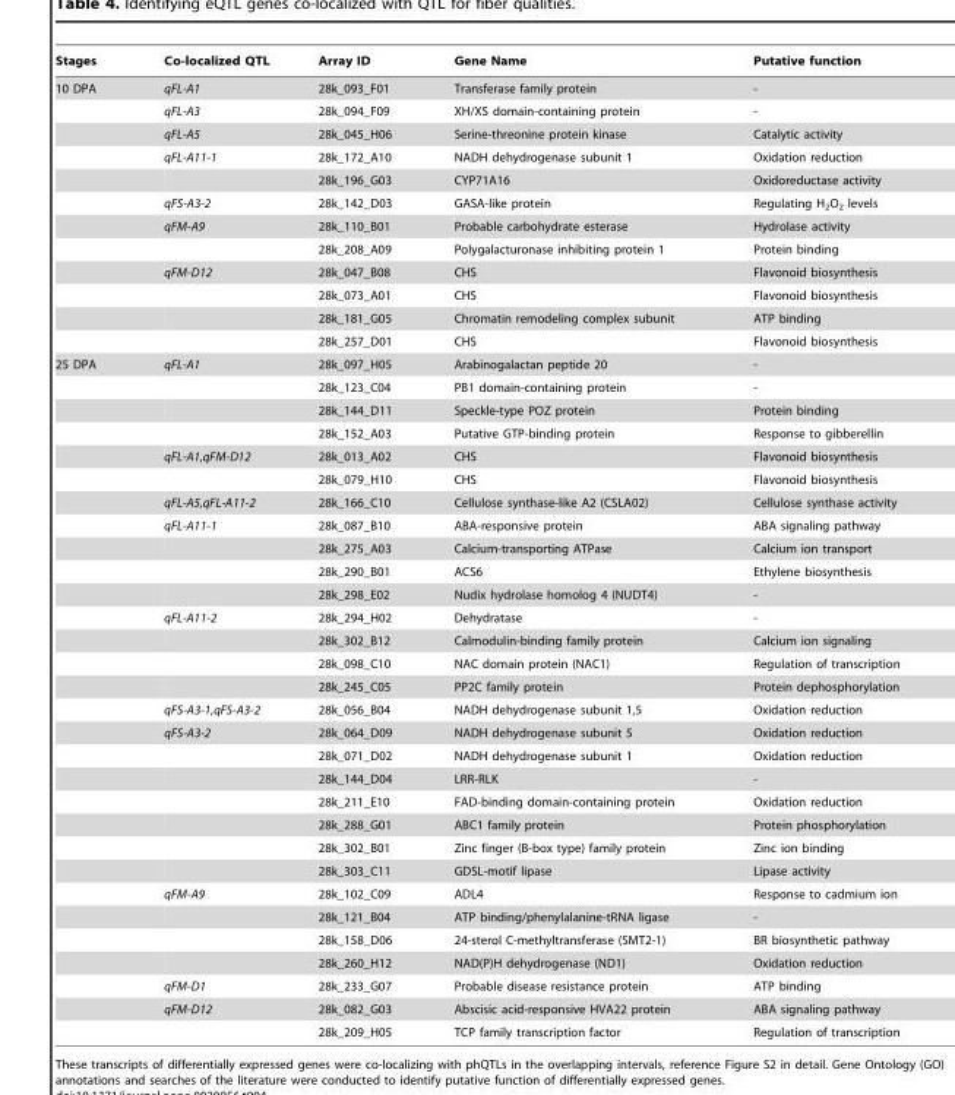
<table><thead><tr><td>Stages</td><td>Co-localized QTL</td><td>Array ID</td><td>Gene Name</td><td>Putative function</td></tr></thead><tbody><tr><td rowspan="12">10 DPA</td><td>qFL-A1</td><td>28k_093_F01</td><td>Transferase family protein</td><td>-</td></tr><tr><td>qFL-A3</td><td>28k_094_F09</td><td>XH/XS domain-containing protein</td><td>-</td></tr><tr><td>qFL-A5</td><td>28k_045_H06</td><td>Serine-threonine protein kinase</td><td>Catalytic activity</td></tr><tr><td>qFL-A11-1</td><td>28k_172_A10</td><td>NADH dehydrogenase subunit 1</td><td>Oxidation reduction</td></tr><tr><td></td><td>28k_196_G03</td><td>CYP71A16</td><td>Oxidoreductase activity</td></tr><tr><td>qFS-A3-2</td><td>28k_142_D03</td><td>GASA-like protein</td><td>Regulating H<sub>2</sub>O<sub>2</sub> levels</td></tr><tr><td>qFM-A9</td><td>28k_110_B01</td><td>Probable carbohydrate esterase</td><td>Hydrolase activity</td></tr><tr><td></td><td>28k_208_A09</td><td>Polygalacturonase inhibiting protein 1</td><td>Protein binding</td></tr><tr><td>qFM-D12</td><td>28k_047_B08</td><td>CHS</td><td>Flavonoid biosynthesis</td></tr><tr><td></td><td>28k_073_A01</td><td>CHS</td><td>Flavonoid biosynthesis</td></tr><tr><td></td><td>28k_181_G05</td><td>Chromatin remodeling complex subunit</td><td>ATP binding</td></tr><tr><td></td><td>28k_257_D01</td><td>CHS</td><td>Flavonoid biosynthesis</td></tr><tr><td rowspan="30">25 DPA</td><td>qFL-A1</td><td>28k_097_H05</td><td>Arabinogalactan peptide 20</td><td>-</td></tr><tr><td></td><td>28k_123_C04</td><td>PB1 domain-containing protein</td><td>-</td></tr><tr><td></td><td>28k_144_D11</td><td>Speckle-type POZ protein</td><td>Protein binding</td></tr><tr><td></td><td>28k_152_A03</td><td>Putative GTP-binding protein</td><td>Response to gibberellin</td></tr><tr><td>qFL-A1,qFM-D12</td><td>28k_013_A02</td><td>CHS</td><td>Flavonoid biosynthesis</td></tr><tr><td></td><td>28k_079_H10</td><td>CHS</td><td>Flavonoid biosynthesis</td></tr><tr><td>qFL-A5,qFL-A11-2</td><td>28k_166_C10</td><td>Cellulose synthase-like A2 (CSLA02)</td><td>Cellulose synthase activity</td></tr><tr><td>qFL-A11-1</td><td>28k_087_B10</td><td>ABA-responsive protein</td><td>ABA signaling pathway</td></tr><tr><td></td><td>28k_275_A03</td><td>Calcium-transporting ATPase</td><td>Calcium ion transport</td></tr><tr><td></td><td>28k_290_B01</td><td>ACS6</td><td>Ethylene biosynthesis</td></tr><tr><td></td><td>28k_298_E02</td><td>Nudix hydrolase homolog 4 (NUDT4)</td><td>-</td></tr><tr><td>qFL-A11-2</td><td>28k_294_H02</td><td>Dehydratase</td><td>-</td></tr><tr><td></td><td>28k_302_B12</td><td>Calmodulin-binding family protein</td><td>Calcium ion signaling</td></tr><tr><td></td><td>28k_098_C10</td><td>NAC domain protein (NAC1)</td><td>Regulation of transcription</td></tr><tr><td></td><td>28k_245_C05</td><td>PP2C family protein</td><td>Protein dephosphorylation</td></tr><tr><td>qFS-A3-1,qFS-A3-2</td><td>28k_056_B04</td><td>NADH dehydrogenase subunit 1,5</td><td>Oxidation reduction</td></tr><tr><td>qFS-A3-2</td><td>28k_064_D09</td><td>NADH dehydrogenase subunit 5</td><td>Oxidation reduction</td></tr><tr><td></td><td>28k_071_D02</td><td>NADH dehydrogenase subunit 1</td><td>Oxidation reduction</td></tr><tr><td></td><td>28k_144_D04</td><td>LRR-RLK</td><td>-</td></tr><tr><td></td><td>28k_211_E10</td><td>FAD-binding domain-containing protein</td><td>Oxidation reduction</td></tr><tr><td></td><td>28k_288_G01</td><td>ABC1 family protein</td><td>Protein phosphorylation</td></tr><tr><td></td><td>28k_302_B01</td><td>Zinc finger (B-box type) family protein</td><td>Zinc ion binding</td></tr><tr><td></td><td>28k_303_C11</td><td>GDSL-motif lipase</td><td>Lipase activity</td></tr><tr><td>qFM-A9</td><td>28k_102_C09</td><td>ADL4</td><td>Response to cadmium ion</td></tr><tr><td></td><td>28k_121_B04</td><td>ATP binding/phenylalanine-tRNA ligase</td><td>-</td></tr><tr><td></td><td>28k_158_D06</td><td>24-sterol C-methyltransferase (SMT2-1)</td><td>BR biosynthetic pathway</td></tr><tr><td></td><td>28k_260_H12</td><td>NAD(P)H dehydrogenase (ND1)</td><td>Oxidation reduction</td></tr><tr><td>qFM-D1</td><td>28k_233_G07</td><td>Probable disease resistance protein</td><td>ATP binding</td></tr><tr><td>qFM-D12</td><td>28k_082_G03</td><td>Abscisic acid-responsive HVA22 protein</td><td>ABA signaling pathway</td></tr><tr><td></td><td>28k_209_H05</td><td>TCP family transcription factor</td><td>Regulation of transcription</td></tr></tbody></table>